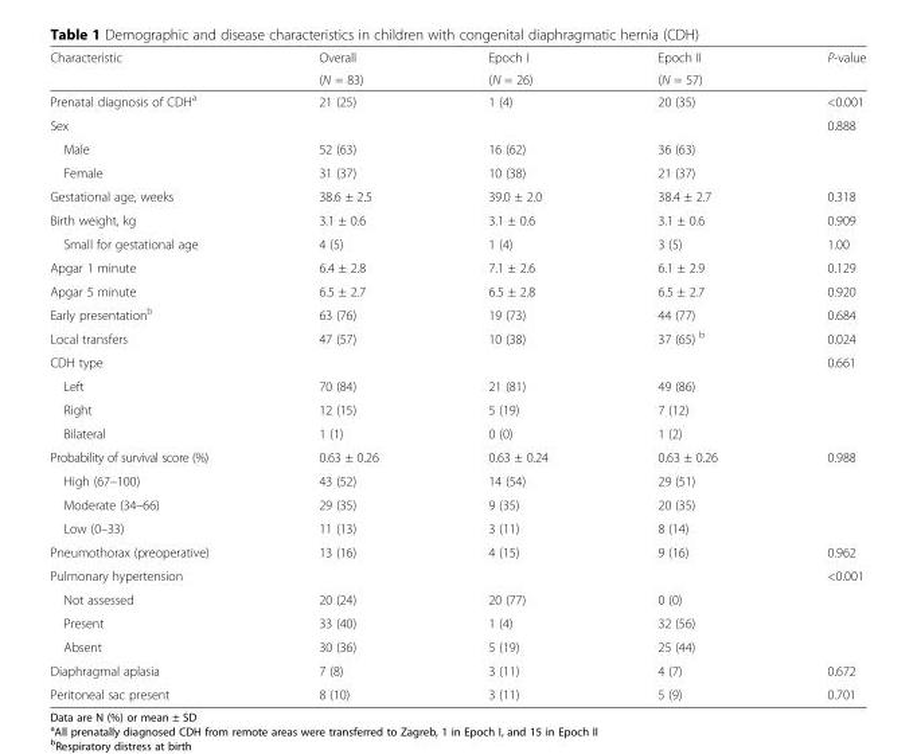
<table><thead><tr><td rowspan="2">Characteristic</td><td rowspan="2">Overall (N = 83)</td><td rowspan="2">Epoch I (N = 26)</td><td rowspan="2">Epoch II (N = 57)</td><td rowspan="2">P-value</td></tr><tr></tr></thead><tbody><tr><td>Prenatal diagnosis of CDH<sup>a</sup></td><td>21 (25)</td><td>1 (4)</td><td>20 (35)</td><td>&lt;0.001</td></tr><tr><td>Sex</td><td></td><td></td><td></td><td>0.888</td></tr><tr><td>Male</td><td>52 (63)</td><td>16 (62)</td><td>36 (63)</td><td></td></tr><tr><td>Female</td><td>31 (37)</td><td>10 (38)</td><td>21 (37)</td><td></td></tr><tr><td>Gestational age, weeks</td><td>38.6 ± 2.5</td><td>39.0 ± 2.0</td><td>38.4 ± 2.7</td><td>0.318</td></tr><tr><td>Birth weight, kg</td><td>3.1 ± 0.6</td><td>3.1 ± 0.6</td><td>3.1 ± 0.6</td><td>0.909</td></tr><tr><td>Small for gestational age</td><td>4 (5)</td><td>1 (4)</td><td>3 (5)</td><td>1.00</td></tr><tr><td>Apgar 1 minute</td><td>6.4 ± 2.8</td><td>7.1 ± 2.6</td><td>6.1 ± 2.9</td><td>0.129</td></tr><tr><td>Apgar 5 minute</td><td>6.5 ± 2.7</td><td>6.5 ± 2.8</td><td>6.5 ± 2.7</td><td>0.920</td></tr><tr><td>Early presentation<sup>b</sup></td><td>63 (76)</td><td>19 (73)</td><td>44 (77)</td><td>0.684</td></tr><tr><td>Local transfers</td><td>47 (57)</td><td>10 (38)</td><td>37 (65) <sup>b</sup></td><td>0.024</td></tr><tr><td>CDH type</td><td></td><td></td><td></td><td>0.661</td></tr><tr><td>Left</td><td>70 (84)</td><td>21 (81)</td><td>49 (86)</td><td></td></tr><tr><td>Right</td><td>12 (15)</td><td>5 (19)</td><td>7 (12)</td><td></td></tr><tr><td>Bilateral</td><td>1 (1)</td><td>0 (0)</td><td>1 (2)</td><td></td></tr><tr><td>Probability of survival score (%)</td><td>0.63 ± 0.26</td><td>0.63 ± 0.24</td><td>0.63 ± 0.26</td><td>0.988</td></tr><tr><td>High (67–100)</td><td>43 (52)</td><td>14 (54)</td><td>29 (51)</td><td></td></tr><tr><td>Moderate (34–66)</td><td>29 (35)</td><td>9 (35)</td><td>20 (35)</td><td></td></tr><tr><td>Low (0–33)</td><td>11 (13)</td><td>3 (11)</td><td>8 (14)</td><td></td></tr><tr><td>Pneumothorax (preoperative)</td><td>13 (16)</td><td>4 (15)</td><td>9 (16)</td><td>0.962</td></tr><tr><td>Pulmonary hypertension</td><td></td><td></td><td></td><td>&lt;0.001</td></tr><tr><td>Not assessed</td><td>20 (24)</td><td>20 (77)</td><td>0 (0)</td><td></td></tr><tr><td>Present</td><td>33 (40)</td><td>1 (4)</td><td>32 (56)</td><td></td></tr><tr><td>Absent</td><td>30 (36)</td><td>5 (19)</td><td>25 (44)</td><td></td></tr><tr><td>Diaphragmal aplasia</td><td>7 (8)</td><td>3 (11)</td><td>4 (7)</td><td>0.672</td></tr><tr><td>Peritoneal sac present</td><td>8 (10)</td><td>3 (11)</td><td>5 (9)</td><td>0.701</td></tr></tbody></table>